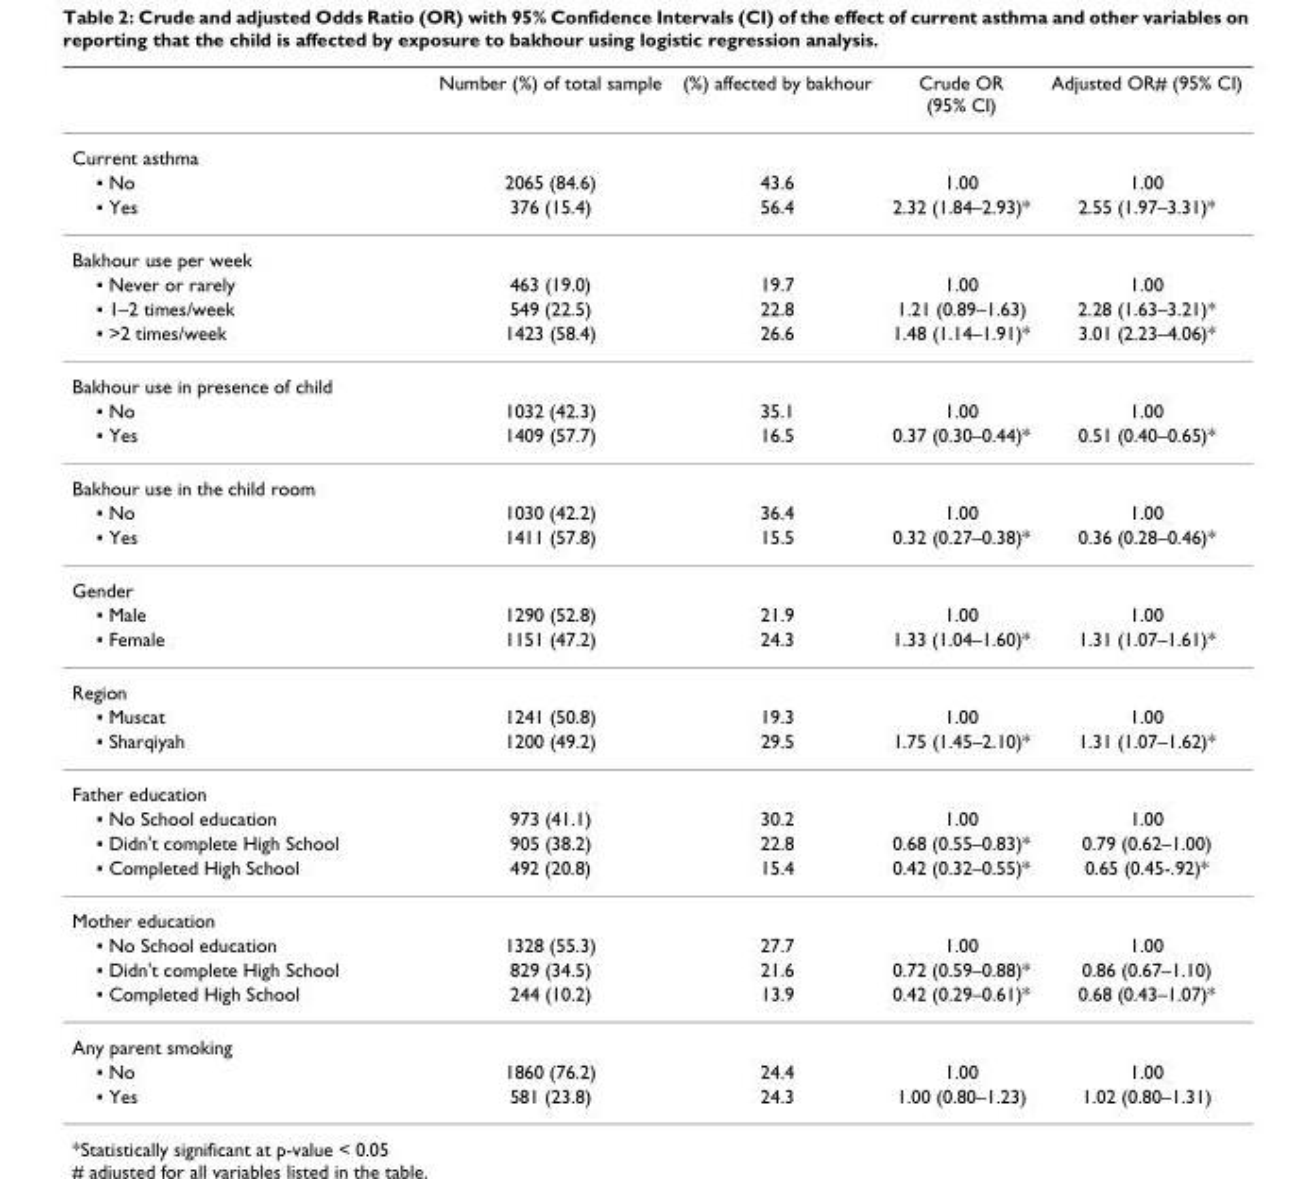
<table><thead><tr><td></td><td>Number (%) of total sample</td><td>(%) affected by bakhour</td><td>Crude OR (95% CI)</td><td>Adjusted OR# (95% CI)</td></tr></thead><tbody><tr><td colspan="5">Current asthma</td></tr><tr><td>▪ No</td><td>2065 (84.6)</td><td>43.6</td><td>1.00</td><td>1.00</td></tr><tr><td>▪ Yes</td><td>376 (15.4)</td><td>56.4</td><td>2.32 (1.84–2.93)*</td><td>2.55 (1.97–3.31)*</td></tr><tr><td colspan="5">Bakhour use per week</td></tr><tr><td>▪ Never or rarely</td><td>463 (19.0)</td><td>19.7</td><td>1.00</td><td>1.00</td></tr><tr><td>▪ 1–2 times/week</td><td>549 (22.5)</td><td>22.8</td><td>1.21 (0.89–1.63)</td><td>2.28 (1.63–3.21)*</td></tr><tr><td>▪ &gt;2 times/week</td><td>1423 (58.4)</td><td>26.6</td><td>1.48 (1.14–1.91)*</td><td>3.01 (2.23–4.06)*</td></tr><tr><td colspan="5">Bakhour use in presence of child</td></tr><tr><td>▪ No</td><td>1032 (42.3)</td><td>35.1</td><td>1.00</td><td>1.00</td></tr><tr><td>▪ Yes</td><td>1409 (57.7)</td><td>16.5</td><td>0.37 (0.30–0.44)*</td><td>0.51 (0.40–0.65)*</td></tr><tr><td colspan="5">Bakhour use in the child room</td></tr><tr><td>▪ No</td><td>1030 (42.2)</td><td>36.4</td><td>1.00</td><td>1.00</td></tr><tr><td>▪ Yes</td><td>1411 (57.8)</td><td>15.5</td><td>0.32 (0.27–0.38)*</td><td>0.36 (0.28–0.46)*</td></tr><tr><td colspan="5">Gender</td></tr><tr><td>▪ Male</td><td>1290 (52.8)</td><td>21.9</td><td>1.00</td><td>1.00</td></tr><tr><td>▪ Female</td><td>1151 (47.2)</td><td>24.3</td><td>1.33 (1.04–1.60)*</td><td>1.31 (1.07–1.61)*</td></tr><tr><td colspan="5">Region</td></tr><tr><td>▪ Muscat</td><td>1241 (50.8)</td><td>19.3</td><td>1.00</td><td>1.00</td></tr><tr><td>▪ Sharqiyah</td><td>1200 (49.2)</td><td>29.5</td><td>1.75 (1.45–2.10)*</td><td>1.31 (1.07–1.62)*</td></tr><tr><td colspan="5">Father education</td></tr><tr><td>▪ No School education</td><td>973 (41.1)</td><td>30.2</td><td>1.00</td><td>1.00</td></tr><tr><td>▪ Didn&#x27;t complete High School</td><td>905 (38.2)</td><td>22.8</td><td>0.68 (0.55–0.83)*</td><td>0.79 (0.62–1.00)</td></tr><tr><td>▪ Completed High School</td><td>492 (20.8)</td><td>15.4</td><td>0.42 (0.32–0.55)*</td><td>0.65 (0.45-.92)*</td></tr><tr><td colspan="5">Mother education</td></tr><tr><td>▪ No School education</td><td>1328 (55.3)</td><td>27.7</td><td>1.00</td><td>1.00</td></tr><tr><td>▪ Didn&#x27;t complete High School</td><td>829 (34.5)</td><td>21.6</td><td>0.72 (0.59–0.88)*</td><td>0.86 (0.67–1.10)</td></tr><tr><td>▪ Completed High School</td><td>244 (10.2)</td><td>13.9</td><td>0.42 (0.29–0.61)*</td><td>0.68 (0.43–1.07)*</td></tr><tr><td colspan="5">Any parent smoking</td></tr><tr><td>▪ No</td><td>1860 (76.2)</td><td>24.4</td><td>1.00</td><td>1.00</td></tr><tr><td>▪ Yes</td><td>581 (23.8)</td><td>24.3</td><td>1.00 (0.80–1.23)</td><td>1.02 (0.80–1.31)</td></tr></tbody></table>